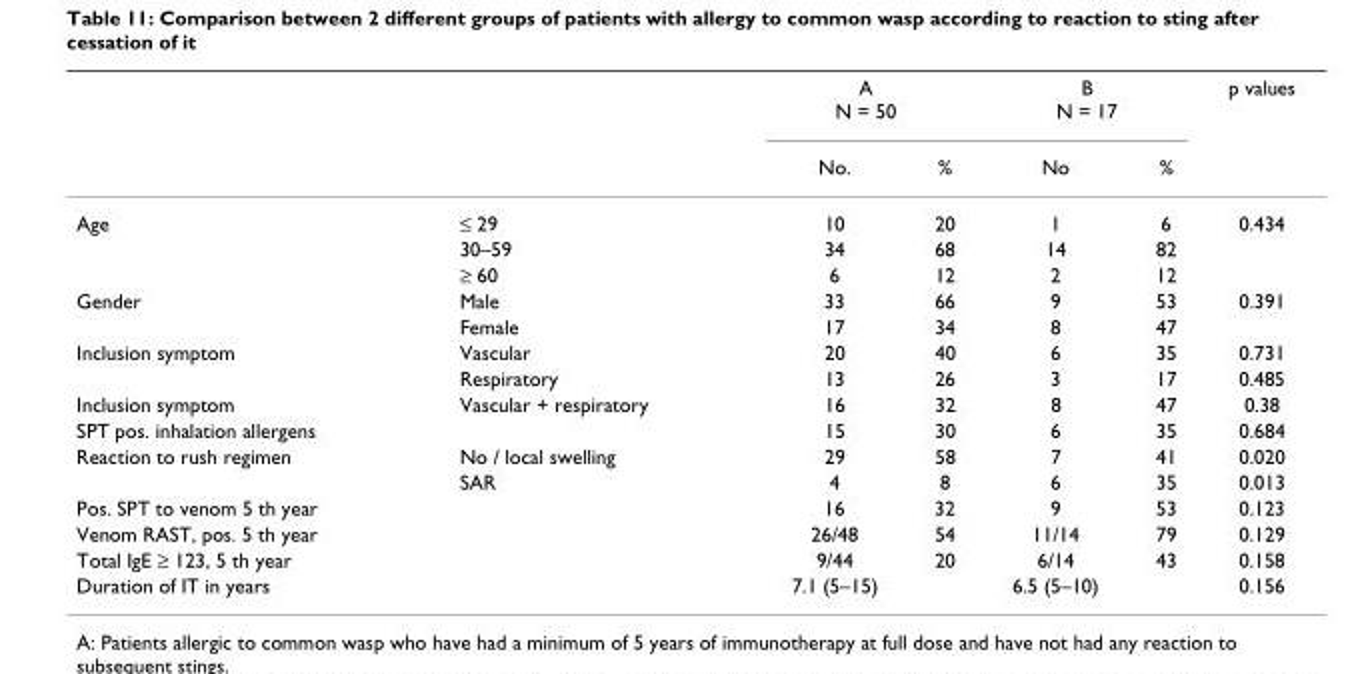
<table><thead><tr><td rowspan="2"></td><td rowspan="2"></td><td colspan="2">A N = 50</td><td colspan="2">B N = 17</td><td rowspan="2">p values</td></tr><tr><td>No.</td><td>%</td><td>No</td><td>%</td></tr></thead><tbody><tr><td rowspan="3">Age</td><td>≤ 29</td><td>10</td><td>20</td><td>1</td><td>6</td><td>0.434</td></tr><tr><td>30–59</td><td>34</td><td>68</td><td>14</td><td>82</td><td></td></tr><tr><td>≥ 60</td><td>6</td><td>12</td><td>2</td><td>12</td><td></td></tr><tr><td rowspan="2">Gender</td><td>Male</td><td>33</td><td>66</td><td>9</td><td>53</td><td>0.391</td></tr><tr><td>Female</td><td>17</td><td>34</td><td>8</td><td>47</td><td></td></tr><tr><td rowspan="2">Inclusion symptom</td><td>Vascular</td><td>20</td><td>40</td><td>6</td><td>35</td><td>0.731</td></tr><tr><td>Respiratory</td><td>13</td><td>26</td><td>3</td><td>17</td><td>0.485</td></tr><tr><td>Inclusion symptom</td><td>Vascular + respiratory</td><td>16</td><td>32</td><td>8</td><td>47</td><td>0.38</td></tr><tr><td>SPT pos. inhalation allergens</td><td></td><td>15</td><td>30</td><td>6</td><td>35</td><td>0.684</td></tr><tr><td rowspan="2">Reaction to rush regimen</td><td>No / local swelling</td><td>29</td><td>58</td><td>7</td><td>41</td><td>0.020</td></tr><tr><td>SAR</td><td>4</td><td>8</td><td>6</td><td>35</td><td>0.013</td></tr><tr><td>Pos. SPT to venom 5 th year</td><td></td><td>16</td><td>32</td><td>9</td><td>53</td><td>0.123</td></tr><tr><td>Venom RAST, pos. 5 th year</td><td></td><td>26/48</td><td>54</td><td>11/14</td><td>79</td><td>0.129</td></tr><tr><td>Total IgE ≥ 123, 5 th year</td><td></td><td>9/44</td><td>20</td><td>6/14</td><td>43</td><td>0.158</td></tr><tr><td>Duration of IT in years</td><td></td><td>7.1 (5–15)</td><td></td><td>6.5 (5–10)</td><td></td><td>0.156</td></tr></tbody></table>